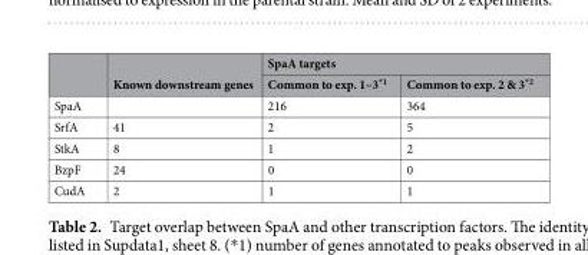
<table><thead><tr><td rowspan="2"></td><td rowspan="2">Known downstream genes</td><td colspan="2">SpaA targets</td></tr><tr><td>Common to exp. 1–3<sup>*1</sup></td><td>Common to exp. 2 &amp; 3<sup>*2</sup></td></tr></thead><tbody><tr><td>SpaA</td><td></td><td>216</td><td>364</td></tr><tr><td>SrfA</td><td>41</td><td>2</td><td>5</td></tr><tr><td>StkA</td><td>8</td><td>1</td><td>2</td></tr><tr><td>BzpF</td><td>24</td><td>0</td><td>0</td></tr><tr><td>CudA</td><td>2</td><td>1</td><td>1</td></tr></tbody></table>